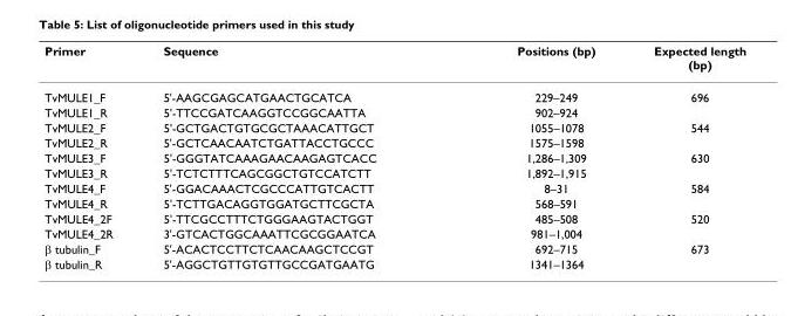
<table><thead><tr><td>Primer</td><td>Sequence</td><td>Positions (bp)</td><td>Expected length (bp)</td></tr></thead><tbody><tr><td>TvMULE1_F</td><td>5&#x27;-AAGCGAGCATGAACTGCATCA</td><td>229–249</td><td>696</td></tr><tr><td>TvMULE1_R</td><td>5&#x27;-TTCCGATCAAGGTCCGGCAATTA</td><td>902–924</td><td></td></tr><tr><td>TvMULE2_F</td><td>5&#x27;-GCTGACTGTGCGCTAAACATTGCT</td><td>1055–1078</td><td>544</td></tr><tr><td>TvMULE2_R</td><td>5&#x27;-GCTCAACAATCTGATTACCTGCCC</td><td>1575–1598</td><td></td></tr><tr><td>TvMULE3_F</td><td>5&#x27;-GGGTATCAAAGAACAAGAGTCACC</td><td>1,286–1,309</td><td>630</td></tr><tr><td>TvMULE3_R</td><td>5&#x27;-TCTCTTTCAGCGGCTGTCCATCTT</td><td>1,892–1,915</td><td></td></tr><tr><td>TvMULE4_F</td><td>5&#x27;-GGACAAACTCGCCCATTGTCACTT</td><td>8–31</td><td>584</td></tr><tr><td>TvMULE4_R</td><td>5&#x27;-TCTTGACAGGTGGATGCTTCGCTA</td><td>568–591</td><td></td></tr><tr><td>TvMULE4_2F</td><td>5&#x27;-TTCGCCTTTCTGGGAAGTACTGGT</td><td>485–508</td><td>520</td></tr><tr><td>TvMULE4_2R</td><td>3&#x27;-GTCACTGGCAAATTCGCGGAATCA</td><td>981–1,004</td><td></td></tr><tr><td>β tubulin_F</td><td>5&#x27;-ACACTCCTTCTCAACAAGCTCCGT</td><td>692–715</td><td>673</td></tr><tr><td>β tubulin_R</td><td>5&#x27;-AGGCTGTTGTGTTGCCGATGAATG</td><td>1341–1364</td><td></td></tr></tbody></table>